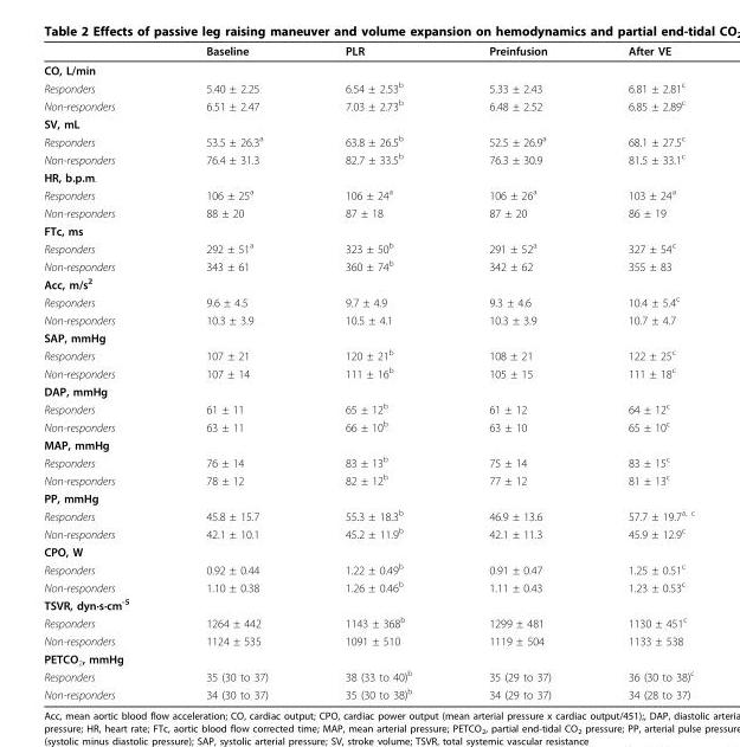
<table><thead><tr><td></td><td>Baseline</td><td>PLR</td><td>Preinfusion</td><td>After VE</td></tr></thead><tbody><tr><td colspan="5">CO, L/min</td></tr><tr><td>Responders</td><td>5.40 ± 2.25</td><td>6.54 ± 2.53<sup>b</sup></td><td>5.33 ± 2.43</td><td>6.81 ± 2.81<sup>c</sup></td></tr><tr><td>Non-responders</td><td>6.51 ± 2.47</td><td>7.03 ± 2.73<sup>b</sup></td><td>6.48 ± 2.52</td><td>6.85 ± 2.89<sup>c</sup></td></tr><tr><td colspan="5">SV, mL</td></tr><tr><td>Responders</td><td>53.5 ± 26.3<sup>a</sup></td><td>63.8 ± 26.5<sup>b</sup></td><td>52.5 ± 26.9<sup>a</sup></td><td>68.1 ± 27.5<sup>c</sup></td></tr><tr><td>Non-responders</td><td>76.4 ± 31.3</td><td>82.7 ± 33.5<sup>b</sup></td><td>76.3 ± 30.9</td><td>81.5 ± 33.1<sup>c</sup></td></tr><tr><td colspan="5">HR, b.p.m.</td></tr><tr><td>Responders</td><td>106 ± 25<sup>a</sup></td><td>106 ± 24<sup>a</sup></td><td>106 ± 26<sup>a</sup></td><td>103 ± 24<sup>a</sup></td></tr><tr><td>Non-responders</td><td>88 ± 20</td><td>87 ± 18</td><td>87 ± 20</td><td>86 ± 19</td></tr><tr><td colspan="5">FTc, ms</td></tr><tr><td>Responders</td><td>292 ± 51<sup>a</sup></td><td>323 ± 50<sup>b</sup></td><td>291 ± 52<sup>a</sup></td><td>327 ± 54<sup>c</sup></td></tr><tr><td>Non-responders</td><td>343 ± 61</td><td>360 ± 74<sup>b</sup></td><td>342 ± 62</td><td>355 ± 83</td></tr><tr><td colspan="5">Acc, m/s<sup>2</sup></td></tr><tr><td>Responders</td><td>9.6 ± 4.5</td><td>9.7 ± 4.9</td><td>9.3 ± 4.6</td><td>10.4 ± 5.4<sup>c</sup></td></tr><tr><td>Non-responders</td><td>10.3 ± 3.9</td><td>10.5 ± 4.1</td><td>10.3 ± 3.9</td><td>10.7 ± 4.7</td></tr><tr><td colspan="5">SAP, mmHg</td></tr><tr><td>Responders</td><td>107 ± 21</td><td>120 ± 21<sup>b</sup></td><td>108 ± 21</td><td>122 ± 25<sup>c</sup></td></tr><tr><td>Non-responders</td><td>107 ± 14</td><td>111 ± 16<sup>b</sup></td><td>105 ± 15</td><td>111 ± 18<sup>c</sup></td></tr><tr><td colspan="5">DAP, mmHg</td></tr><tr><td>Responders</td><td>61 ± 11</td><td>65 ± 12<sup>b</sup></td><td>61 ± 12</td><td>64 ± 12<sup>c</sup></td></tr><tr><td>Non-responders</td><td>63 ± 11</td><td>66 ± 10<sup>b</sup></td><td>63 ± 10</td><td>65 ± 10<sup>c</sup></td></tr><tr><td colspan="5">MAP, mmHg</td></tr><tr><td>Responders</td><td>76 ± 14</td><td>83 ± 13<sup>b</sup></td><td>75 ± 14</td><td>83 ± 15<sup>c</sup></td></tr><tr><td>Non-responders</td><td>78 ± 12</td><td>82 ± 12<sup>b</sup></td><td>77 ± 12</td><td>81 ± 13<sup>c</sup></td></tr><tr><td colspan="5">PP, mmHg</td></tr><tr><td>Responders</td><td>45.8 ± 15.7</td><td>55.3 ± 18.3<sup>b</sup></td><td>46.9 ± 13.6</td><td>57.7 ± 19.7<sup>a, c</sup></td></tr><tr><td>Non-responders</td><td>42.1 ± 10.1</td><td>45.2 ± 11.9<sup>b</sup></td><td>42.1 ± 11.3</td><td>45.9 ± 12.9<sup>c</sup></td></tr><tr><td colspan="5">CPO, W</td></tr><tr><td>Responders</td><td>0.92 ± 0.44</td><td>1.22 ± 0.49<sup>b</sup></td><td>0.91 ± 0.47</td><td>1.25 ± 0.51<sup>c</sup></td></tr><tr><td>Non-responders</td><td>1.10 ± 0.38</td><td>1.26 ± 0.46<sup>b</sup></td><td>1.11 ± 0.43</td><td>1.23 ± 0.53<sup>c</sup></td></tr><tr><td colspan="5">TSVR, dyn·s·cm<sup>-5</sup></td></tr><tr><td>Responders</td><td>1264 ± 442</td><td>1143 ± 368<sup>b</sup></td><td>1299 ± 481</td><td>1130 ± 451<sup>c</sup></td></tr><tr><td>Non-responders</td><td>1124 ± 535</td><td>1091 ± 510</td><td>1119 ± 504</td><td>1133 ± 538</td></tr><tr><td colspan="5">PETCO<sub>2</sub>, mmHg</td></tr><tr><td>Responders</td><td>35 (30 to 37)</td><td>38 (33 to 40)<sup>b</sup></td><td>35 (29 to 37)</td><td>36 (30 to 38)<sup>c</sup></td></tr><tr><td>Non-responders</td><td>34 (30 to 37)</td><td>35 (30 to 38)<sup>b</sup></td><td>34 (29 to 37)</td><td>34 (28 to 37)</td></tr></tbody></table>